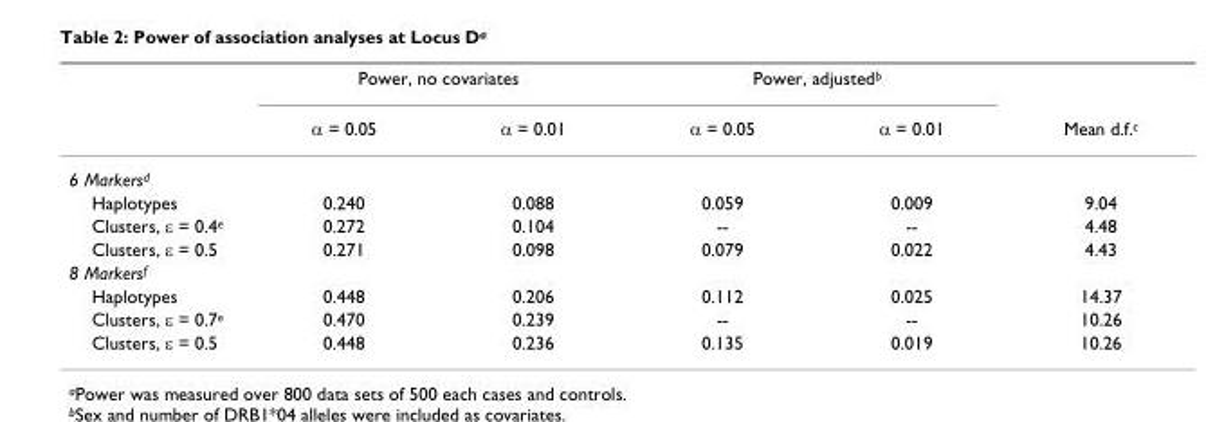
<table><thead><tr><td rowspan="2"></td><td colspan="2">Power, no covariates</td><td colspan="2">Power, adjusted<sup>b</sup></td><td rowspan="2">Mean d.f.<sup>c</sup></td></tr><tr><td>α = 0.05</td><td>α = 0.01</td><td>α = 0.05</td><td>α = 0.01</td></tr></thead><tbody><tr><td colspan="6">6 Markers<sup>d</sup></td></tr><tr><td>Haplotypes</td><td>0.240</td><td>0.088</td><td>0.059</td><td>0.009</td><td>9.04</td></tr><tr><td>Clusters, ε = 0.4<sup>e</sup></td><td>0.272</td><td>0.104</td><td>--</td><td>--</td><td>4.48</td></tr><tr><td>Clusters, ε = 0.5</td><td>0.271</td><td>0.098</td><td>0.079</td><td>0.022</td><td>4.43</td></tr><tr><td colspan="6">8 Markers<sup>f</sup></td></tr><tr><td>Haplotypes</td><td>0.448</td><td>0.206</td><td>0.112</td><td>0.025</td><td>14.37</td></tr><tr><td>Clusters, ε = 0.7<sup>e</sup></td><td>0.470</td><td>0.239</td><td>--</td><td>--</td><td>10.26</td></tr><tr><td>Clusters, ε = 0.5</td><td>0.448</td><td>0.236</td><td>0.135</td><td>0.019</td><td>10.26</td></tr></tbody></table>